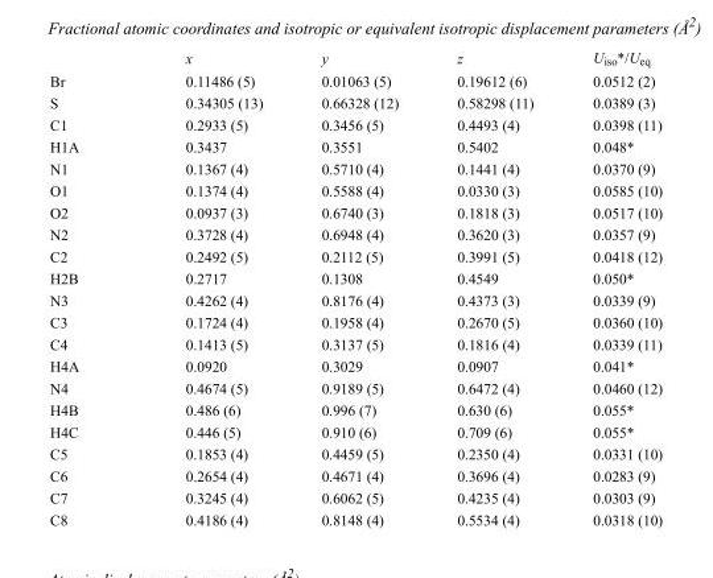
<table><thead><tr><td></td><td>x</td><td>y</td><td>z</td><td>U<sub>iso</sub>*/U<sub>eq</sub></td></tr></thead><tbody><tr><td>Br</td><td>0.11486 (5)</td><td>0.01063 (5)</td><td>0.19612 (6)</td><td>0.0512 (2)</td></tr><tr><td>S</td><td>0.34305 (13)</td><td>0.66328 (12)</td><td>0.58298 (11)</td><td>0.0389 (3)</td></tr><tr><td>C1</td><td>0.2933 (5)</td><td>0.3456 (5)</td><td>0.4493 (4)</td><td>0.0398 (11)</td></tr><tr><td>H1A</td><td>0.3437</td><td>0.3551</td><td>0.5402</td><td>0.048*</td></tr><tr><td>N1</td><td>0.1367 (4)</td><td>0.5710 (4)</td><td>0.1441 (4)</td><td>0.0370 (9)</td></tr><tr><td>O1</td><td>0.1374 (4)</td><td>0.5588 (4)</td><td>0.0330 (3)</td><td>0.0585 (10)</td></tr><tr><td>O2</td><td>0.0937 (3)</td><td>0.6740 (3)</td><td>0.1818 (3)</td><td>0.0517 (10)</td></tr><tr><td>N2</td><td>0.3728 (4)</td><td>0.6948 (4)</td><td>0.3620 (3)</td><td>0.0357 (9)</td></tr><tr><td>C2</td><td>0.2492 (5)</td><td>0.2112 (5)</td><td>0.3991 (5)</td><td>0.0418 (12)</td></tr><tr><td>H2B</td><td>0.2717</td><td>0.1308</td><td>0.4549</td><td>0.050*</td></tr><tr><td>N3</td><td>0.4262 (4)</td><td>0.8176 (4)</td><td>0.4373 (3)</td><td>0.0339 (9)</td></tr><tr><td>C3</td><td>0.1724 (4)</td><td>0.1958 (4)</td><td>0.2670 (5)</td><td>0.0360 (10)</td></tr><tr><td>C4</td><td>0.1413 (5)</td><td>0.3137 (5)</td><td>0.1816 (4)</td><td>0.0339 (11)</td></tr><tr><td>H4A</td><td>0.0920</td><td>0.3029</td><td>0.0907</td><td>0.041*</td></tr><tr><td>N4</td><td>0.4674 (5)</td><td>0.9189 (5)</td><td>0.6472 (4)</td><td>0.0460 (12)</td></tr><tr><td>H4B</td><td>0.486 (6)</td><td>0.996 (7)</td><td>0.630 (6)</td><td>0.055*</td></tr><tr><td>H4C</td><td>0.446 (5)</td><td>0.910 (6)</td><td>0.709 (6)</td><td>0.055*</td></tr><tr><td>C5</td><td>0.1853 (4)</td><td>0.4459 (5)</td><td>0.2350 (4)</td><td>0.0331 (10)</td></tr><tr><td>C6</td><td>0.2654 (4)</td><td>0.4671 (4)</td><td>0.3696 (4)</td><td>0.0283 (9)</td></tr><tr><td>C7</td><td>0.3245 (4)</td><td>0.6062 (5)</td><td>0.4235 (4)</td><td>0.0303 (9)</td></tr><tr><td>C8</td><td>0.4186 (4)</td><td>0.8148 (4)</td><td>0.5534 (4)</td><td>0.0318 (10)</td></tr></tbody></table>